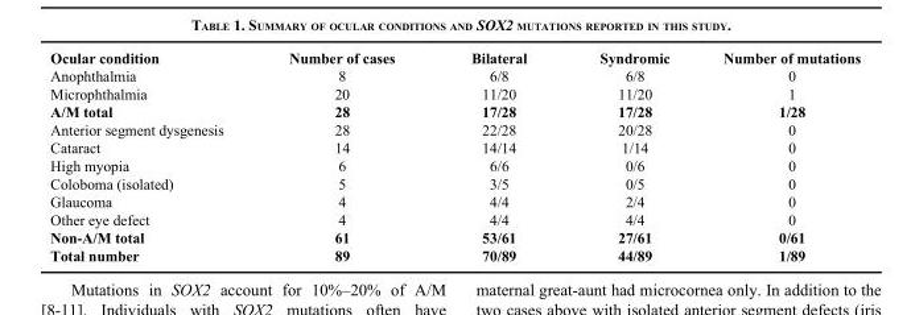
<table><thead><tr><td>Ocular condition</td><td>Number of cases</td><td>Bilateral</td><td>Syndromic</td><td>Number of mutations</td></tr></thead><tbody><tr><td>Anophthalmia</td><td>8</td><td>6/8</td><td>6/8</td><td>0</td></tr><tr><td>Microphthalmia</td><td>20</td><td>11/20</td><td>11/20</td><td>1</td></tr><tr><td>A/M total</td><td>28</td><td>17/28</td><td>17/28</td><td>1/28</td></tr><tr><td>Anterior segment dysgenesis</td><td>28</td><td>22/28</td><td>20/28</td><td>0</td></tr><tr><td>Cataract</td><td>14</td><td>14/14</td><td>1/14</td><td>0</td></tr><tr><td>High myopia</td><td>6</td><td>6/6</td><td>0/6</td><td>0</td></tr><tr><td>Coloboma (isolated)</td><td>5</td><td>3/5</td><td>0/5</td><td>0</td></tr><tr><td>Glaucoma</td><td>4</td><td>4/4</td><td>2/4</td><td>0</td></tr><tr><td>Other eye defect</td><td>4</td><td>4/4</td><td>4/4</td><td>0</td></tr><tr><td>Non-A/M total</td><td>61</td><td>53/61</td><td>27/61</td><td>0/61</td></tr><tr><td>Total number</td><td>89</td><td>70/89</td><td>44/89</td><td>1/89</td></tr></tbody></table>